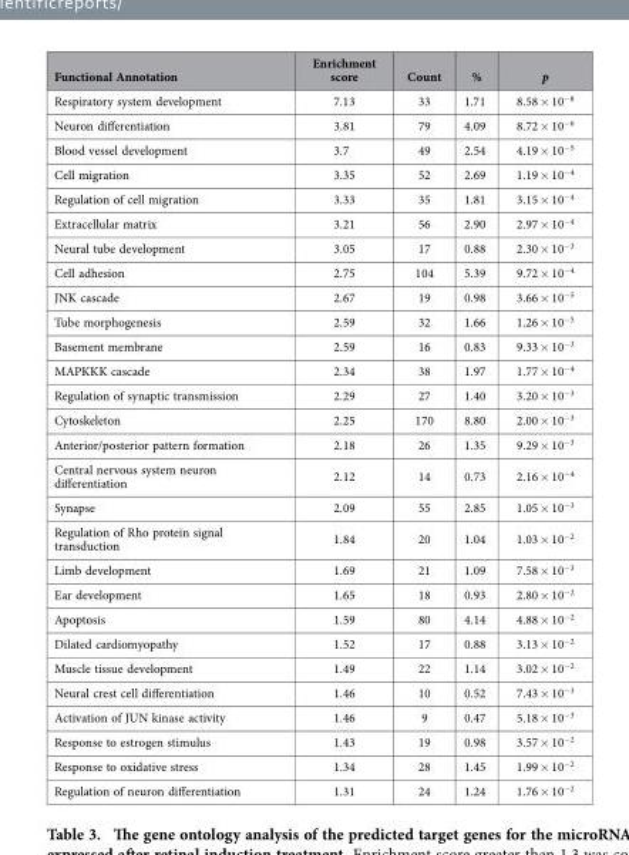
<table><thead><tr><td>Functional Annotation</td><td>Enrichment score</td><td>Count</td><td>%</td><td>p</td></tr></thead><tbody><tr><td>Respiratory system development</td><td>7.13</td><td>33</td><td>1.71</td><td>8.58 × 10<sup>−8</sup></td></tr><tr><td>Neuron differentiation</td><td>3.81</td><td>79</td><td>4.09</td><td>8.72 × 10<sup>−6</sup></td></tr><tr><td>Blood vessel development</td><td>3.7</td><td>49</td><td>2.54</td><td>4.19 × 10<sup>−5</sup></td></tr><tr><td>Cell migration</td><td>3.35</td><td>52</td><td>2.69</td><td>1.19 × 10<sup>−4</sup></td></tr><tr><td>Regulation of cell migration</td><td>3.33</td><td>35</td><td>1.81</td><td>3.15 × 10<sup>−4</sup></td></tr><tr><td>Extracellular matrix</td><td>3.21</td><td>56</td><td>2.90</td><td>2.97 × 10<sup>−4</sup></td></tr><tr><td>Neural tube development</td><td>3.05</td><td>17</td><td>0.88</td><td>2.30 × 10<sup>−3</sup></td></tr><tr><td>Cell adhesion</td><td>2.75</td><td>104</td><td>5.39</td><td>9.72 × 10<sup>−4</sup></td></tr><tr><td>JNK cascade</td><td>2.67</td><td>19</td><td>0.98</td><td>3.66 × 10<sup>−5</sup></td></tr><tr><td>Tube morphogenesis</td><td>2.59</td><td>32</td><td>1.66</td><td>1.26 × 10<sup>−5</sup></td></tr><tr><td>Basement membrane</td><td>2.59</td><td>16</td><td>0.83</td><td>9.33 × 10<sup>−3</sup></td></tr><tr><td>MAPKKK cascade</td><td>2.34</td><td>38</td><td>1.97</td><td>1.77 × 10<sup>−4</sup></td></tr><tr><td>Regulation of synaptic transmission</td><td>2.29</td><td>27</td><td>1.40</td><td>3.20 × 10<sup>−3</sup></td></tr><tr><td>Cytoskeleton</td><td>2.25</td><td>170</td><td>8.80</td><td>2.00 × 10<sup>−3</sup></td></tr><tr><td>Anterior/posterior pattern formation</td><td>2.18</td><td>26</td><td>1.35</td><td>9.29 × 10<sup>−3</sup></td></tr><tr><td>Central nervous system neuron differentiation</td><td>2.12</td><td>14</td><td>0.73</td><td>2.16 × 10<sup>−4</sup></td></tr><tr><td>Synapse</td><td>2.09</td><td>55</td><td>2.85</td><td>1.05 × 10<sup>−3</sup></td></tr><tr><td>Regulation of Rho protein signal transduction</td><td>1.84</td><td>20</td><td>1.04</td><td>1.03 × 10<sup>−2</sup></td></tr><tr><td>Limb development</td><td>1.69</td><td>21</td><td>1.09</td><td>7.58 × 10<sup>−3</sup></td></tr><tr><td>Ear development</td><td>1.65</td><td>18</td><td>0.93</td><td>2.80 × 10<sup>−2</sup></td></tr><tr><td>Apoptosis</td><td>1.59</td><td>80</td><td>4.14</td><td>4.88 × 10<sup>−2</sup></td></tr><tr><td>Dilated cardiomyopathy</td><td>1.52</td><td>17</td><td>0.88</td><td>3.13 × 10<sup>−2</sup></td></tr><tr><td>Muscle tissue development</td><td>1.49</td><td>22</td><td>1.14</td><td>3.02 × 10<sup>−2</sup></td></tr><tr><td>Neural crest cell differentiation</td><td>1.46</td><td>10</td><td>0.52</td><td>7.43 × 10<sup>−3</sup></td></tr><tr><td>Activation of JUN kinase activity</td><td>1.46</td><td>9</td><td>0.47</td><td>5.18 × 10<sup>−3</sup></td></tr><tr><td>Response to estrogen stimulus</td><td>1.43</td><td>19</td><td>0.98</td><td>3.57 × 10<sup>−2</sup></td></tr><tr><td>Response to oxidative stress</td><td>1.34</td><td>28</td><td>1.45</td><td>1.99 × 10<sup>−2</sup></td></tr><tr><td>Regulation of neuron differentiation</td><td>1.31</td><td>24</td><td>1.24</td><td>1.76 × 10<sup>−2</sup></td></tr></tbody></table>